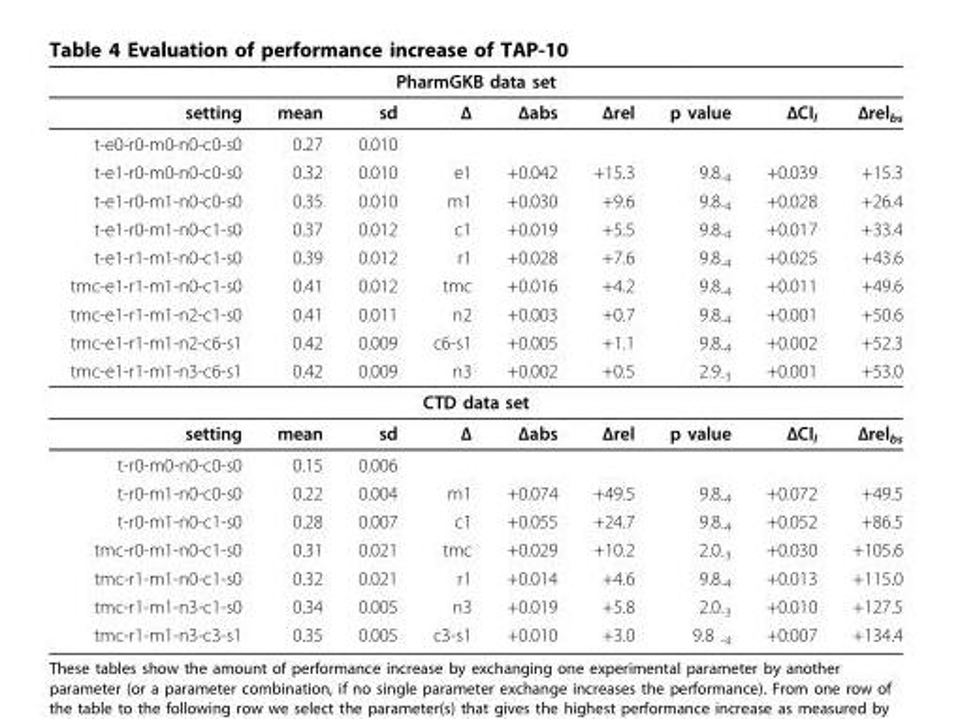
<table><thead><tr><td colspan="9">PharmGKB data set</td></tr><tr><td>setting</td><td>mean</td><td>sd</td><td>Δ</td><td>Δabs</td><td>Δrel</td><td>p value</td><td>ΔCI<sub>l</sub></td><td>Δrel<sub>bs</sub></td></tr></thead><tbody><tr><td>t-e0-r0-m0-n0-c0-s0</td><td>0.27</td><td>0.010</td><td></td><td></td><td></td><td></td><td></td><td></td></tr><tr><td>t-e1-r0-m0-n0-c0-s0</td><td>0.32</td><td>0.010</td><td>e1</td><td>+0.042</td><td>+15.3</td><td>9.8<sub>-4</sub></td><td>+0.039</td><td>+15.3</td></tr><tr><td>t-e1-r0-m1-n0-c0-s0</td><td>0.35</td><td>0.010</td><td>m1</td><td>+0.030</td><td>+9.6</td><td>9.8<sub>-4</sub></td><td>+0.028</td><td>+26.4</td></tr><tr><td>t-e1-r0-m1-n0-c1-s0</td><td>0.37</td><td>0.012</td><td>c1</td><td>+0.019</td><td>+5.5</td><td>9.8<sub>-4</sub></td><td>+0.017</td><td>+33.4</td></tr><tr><td>t-e1-r1-m1-n0-c1-s0</td><td>0.39</td><td>0.012</td><td>r1</td><td>+0.028</td><td>+7.6</td><td>9.8<sub>-4</sub></td><td>+0.025</td><td>+43.6</td></tr><tr><td>tmc-e1-r1-m1-n0-c1-s0</td><td>0.41</td><td>0.012</td><td>tmc</td><td>+0.016</td><td>+4.2</td><td>9.8<sub>-4</sub></td><td>+0.011</td><td>+49.6</td></tr><tr><td>tmc-e1-r1-m1-n2-c1-s0</td><td>0.41</td><td>0.011</td><td>n2</td><td>+0.003</td><td>+0.7</td><td>9.8<sub>-4</sub></td><td>+0.001</td><td>+50.6</td></tr><tr><td>tmc-e1-r1-m1-n2-c6-s1</td><td>0.42</td><td>0.009</td><td>c6-s1</td><td>+0.005</td><td>+1.1</td><td>9.8<sub>-4</sub></td><td>+0.002</td><td>+52.3</td></tr><tr><td>tmc-e1-r1-m1-n3-c6-s1</td><td>0.42</td><td>0.009</td><td>n3</td><td>+0.002</td><td>+0.5</td><td>2.9<sub>-3</sub></td><td>+0.001</td><td>+53.0</td></tr><tr><td colspan="9">CTD data set</td></tr><tr><td>setting</td><td>mean</td><td>sd</td><td>Δ</td><td>Δabs</td><td>Δrel</td><td>p value</td><td>ΔCI<sub>l</sub></td><td>Δrel<sub>bs</sub></td></tr><tr><td>t-r0-m0-n0-c0-s0</td><td>0.15</td><td>0.006</td><td></td><td></td><td></td><td></td><td></td><td></td></tr><tr><td>t-r0-m1-n0-c0-s0</td><td>0.22</td><td>0.004</td><td>m1</td><td>+0.074</td><td>+49.5</td><td>9.8<sub>-4</sub></td><td>+0.072</td><td>+49.5</td></tr><tr><td>t-r0-m1-n0-c1-s0</td><td>0.28</td><td>0.007</td><td>c1</td><td>+0.055</td><td>+24.7</td><td>9.8<sub>-4</sub></td><td>+0.052</td><td>+86.5</td></tr><tr><td>tmc-r0-m1-n0-c1-s0</td><td>0.31</td><td>0.021</td><td>tmc</td><td>+0.029</td><td>+10.2</td><td>2.0<sub>-3</sub></td><td>+0.030</td><td>+105.6</td></tr><tr><td>tmc-r1-m1-n0-c1-s0</td><td>0.32</td><td>0.021</td><td>r1</td><td>+0.014</td><td>+4.6</td><td>9.8<sub>-4</sub></td><td>+0.013</td><td>+115.0</td></tr><tr><td>tmc-r1-m1-n3-c1-s0</td><td>0.34</td><td>0.005</td><td>n3</td><td>+0.019</td><td>+5.8</td><td>2.0<sub>-3</sub></td><td>+0.010</td><td>+127.5</td></tr><tr><td>tmc-r1-m1-n3-c3-s1</td><td>0.35</td><td>0.005</td><td>c3-s1</td><td>+0.010</td><td>+3.0</td><td>9.8 <sub>-4</sub></td><td>+0:007</td><td>+134.4</td></tr></tbody></table>